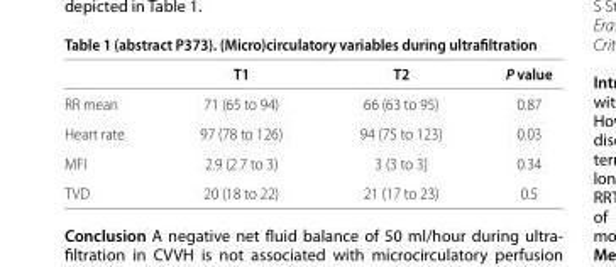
<table><thead><tr><td></td><td>T1</td><td>T2</td><td>P value</td></tr></thead><tbody><tr><td>RR mean</td><td>71 (65 to 94)</td><td>66 (63 to 95)</td><td>0.87</td></tr><tr><td>Heart rate</td><td>97 (78 to 126)</td><td>94 (75 to 123)</td><td>0.03</td></tr><tr><td>MFI</td><td>2.9 (2.7 to 3)</td><td>3 (3 to 3]</td><td>0.34</td></tr><tr><td>TVD</td><td>20 (18 to 22)</td><td>21 (17 to 23)</td><td>0.5</td></tr></tbody></table>